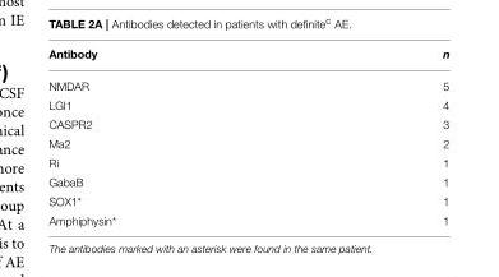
<table><thead><tr><td>Antibody</td><td>n</td></tr></thead><tbody><tr><td>NMDAR</td><td>5</td></tr><tr><td>LGI1</td><td>4</td></tr><tr><td>CASPR2</td><td>3</td></tr><tr><td>Ma2</td><td>2</td></tr><tr><td>Ri</td><td>1</td></tr><tr><td>GabaB</td><td>1</td></tr><tr><td>SOX1*</td><td>1</td></tr><tr><td>Amphiphysin*</td><td>1</td></tr></tbody></table>